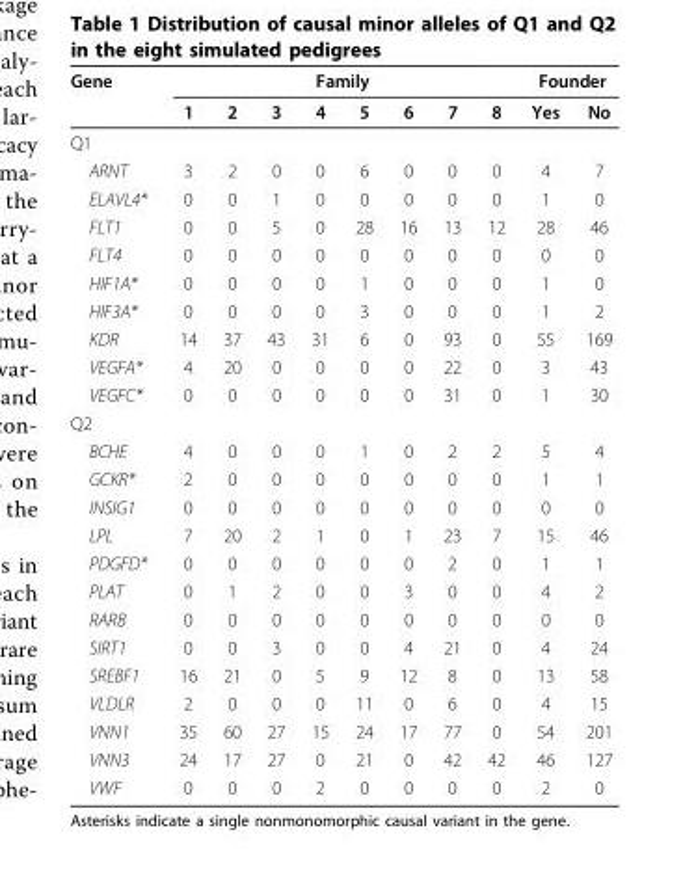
<table><thead><tr><td rowspan="2">Gene</td><td colspan="8">Family</td><td colspan="2">Founder</td></tr><tr><td>1</td><td>2</td><td>3</td><td>4</td><td>5</td><td>6</td><td>7</td><td>8</td><td>Yes</td><td>No</td></tr></thead><tbody><tr><td colspan="11">Q1</td></tr><tr><td>ARNT</td><td>3</td><td>2</td><td>0</td><td>0</td><td>6</td><td>0</td><td>0</td><td>0</td><td>4</td><td>7</td></tr><tr><td>ELAVL4*</td><td>0</td><td>0</td><td>1</td><td>0</td><td>0</td><td>0</td><td>0</td><td>0</td><td>1</td><td>0</td></tr><tr><td>FLT1</td><td>0</td><td>0</td><td>5</td><td>0</td><td>28</td><td>16</td><td>13</td><td>12</td><td>28</td><td>46</td></tr><tr><td>FLT4</td><td>0</td><td>0</td><td>0</td><td>0</td><td>0</td><td>0</td><td>0</td><td>0</td><td>0</td><td>0</td></tr><tr><td>HIF1A*</td><td>0</td><td>0</td><td>0</td><td>0</td><td>1</td><td>0</td><td>0</td><td>0</td><td>1</td><td>0</td></tr><tr><td>HIF3A*</td><td>0</td><td>0</td><td>0</td><td>0</td><td>3</td><td>0</td><td>0</td><td>0</td><td>1</td><td>2</td></tr><tr><td>KDR</td><td>14</td><td>37</td><td>43</td><td>31</td><td>6</td><td>0</td><td>93</td><td>0</td><td>55</td><td>169</td></tr><tr><td>VEGFA*</td><td>4</td><td>20</td><td>0</td><td>0</td><td>0</td><td>0</td><td>22</td><td>0</td><td>3</td><td>43</td></tr><tr><td>VEGFC*</td><td>0</td><td>0</td><td>0</td><td>0</td><td>0</td><td>0</td><td>31</td><td>0</td><td>1</td><td>30</td></tr><tr><td colspan="11">Q2</td></tr><tr><td>BCHE</td><td>4</td><td>0</td><td>0</td><td>0</td><td>1</td><td>0</td><td>2</td><td>2</td><td>5</td><td>4</td></tr><tr><td>GCKR*</td><td>2</td><td>0</td><td>0</td><td>0</td><td>0</td><td>0</td><td>0</td><td>0</td><td>1</td><td>1</td></tr><tr><td>INSIG1</td><td>0</td><td>0</td><td>0</td><td>0</td><td>0</td><td>0</td><td>0</td><td>0</td><td>0</td><td>0</td></tr><tr><td>LPL</td><td>7</td><td>20</td><td>2</td><td>1</td><td>0</td><td>1</td><td>23</td><td>7</td><td>15</td><td>46</td></tr><tr><td>PDGFD*</td><td>0</td><td>0</td><td>0</td><td>0</td><td>0</td><td>0</td><td>2</td><td>0</td><td>1</td><td>1</td></tr><tr><td>PLAT</td><td>0</td><td>1</td><td>2</td><td>0</td><td>0</td><td>3</td><td>0</td><td>0</td><td>4</td><td>2</td></tr><tr><td>RARB</td><td>0</td><td>0</td><td>0</td><td>0</td><td>0</td><td>0</td><td>0</td><td>0</td><td>0</td><td>0</td></tr><tr><td>SIRT1</td><td>0</td><td>0</td><td>3</td><td>0</td><td>0</td><td>4</td><td>21</td><td>0</td><td>4</td><td>24</td></tr><tr><td>SREBF1</td><td>16</td><td>21</td><td>0</td><td>5</td><td>9</td><td>12</td><td>8</td><td>0</td><td>13</td><td>58</td></tr><tr><td>VLDLR</td><td>2</td><td>0</td><td>0</td><td>0</td><td>11</td><td>0</td><td>6</td><td>0</td><td>4</td><td>15</td></tr><tr><td>VNN1</td><td>35</td><td>60</td><td>27</td><td>15</td><td>24</td><td>17</td><td>77</td><td>0</td><td>54</td><td>201</td></tr><tr><td>VNN3</td><td>24</td><td>17</td><td>27</td><td>0</td><td>21</td><td>0</td><td>42</td><td>42</td><td>46</td><td>127</td></tr><tr><td>VWF</td><td>0</td><td>0</td><td>0</td><td>2</td><td>0</td><td>0</td><td>0</td><td>0</td><td>2</td><td>0</td></tr></tbody></table>